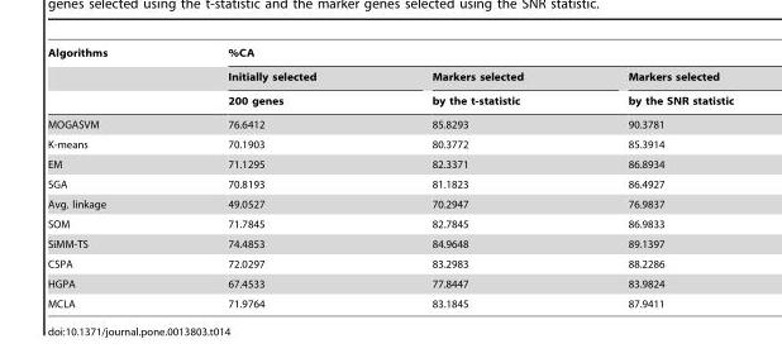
<table><thead><tr><td rowspan="3">Algorithms</td><td colspan="3">%CA</td></tr><tr><td rowspan="2">Initially selected 200 genes</td><td rowspan="2">Markers selected by the t-statistic</td><td rowspan="2">Markers selected by the SNR statistic</td></tr><tr></tr></thead><tbody><tr><td>MOGASVM</td><td>76.6412</td><td>85.8293</td><td>90.3781</td></tr><tr><td>K-means</td><td>70.1903</td><td>80.3772</td><td>85.3914</td></tr><tr><td>EM</td><td>71.1295</td><td>82.3371</td><td>86.8934</td></tr><tr><td>SGA</td><td>70.8193</td><td>81.1823</td><td>86.4927</td></tr><tr><td>Avg. linkage</td><td>49.0527</td><td>70.2947</td><td>76.9837</td></tr><tr><td>SOM</td><td>71.7845</td><td>82.7845</td><td>86.9833</td></tr><tr><td>SiMM-TS</td><td>74.4853</td><td>84.9648</td><td>89.1397</td></tr><tr><td>CSPA</td><td>72.0297</td><td>83.2983</td><td>88.2286</td></tr><tr><td>HGPA</td><td>67.4533</td><td>77.8447</td><td>83.9824</td></tr><tr><td>MCLA</td><td>71.9764</td><td>83.1845</td><td>87.9411</td></tr></tbody></table>